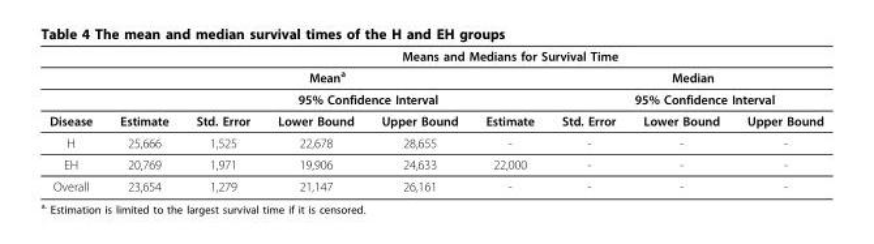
<table><thead><tr><td rowspan="4">Disease</td><td rowspan="4">Estimate</td><td colspan="7">Means and Medians for Survival Time</td></tr><tr><td colspan="3">Meana</td><td rowspan="3">Estimate</td><td colspan="3">Median</td></tr><tr><td rowspan="2">Std. Error</td><td colspan="2">95% Confidence Interval</td><td rowspan="2">Std. Error</td><td colspan="2">95% Confidence Interval</td></tr><tr><td>Lower Bound</td><td>Upper Bound</td><td>Lower Bound</td><td>Upper Bound</td></tr></thead><tbody><tr><td>H</td><td>25,666</td><td>1,525</td><td>22,678</td><td>28,655</td><td>-</td><td>-</td><td>-</td><td>-</td></tr><tr><td>EH</td><td>20,769</td><td>1,971</td><td>19,906</td><td>24,633</td><td>22,000</td><td>-</td><td>-</td><td>-</td></tr><tr><td>Overall</td><td>23,654</td><td>1,279</td><td>21,147</td><td>26,161</td><td>-</td><td>-</td><td>-</td><td>-</td></tr></tbody></table>